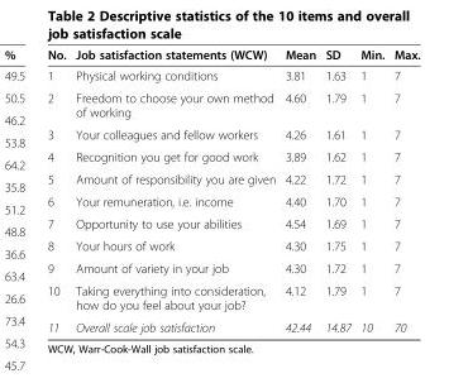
<table><thead><tr><td>No.</td><td>Job satisfaction statements (WCW)</td><td>Mean</td><td>SD</td><td>Min.</td><td>Max.</td></tr></thead><tbody><tr><td>1</td><td>Physical working conditions</td><td>3.81</td><td>1.63</td><td>1</td><td>7</td></tr><tr><td>2</td><td>Freedom to choose your own method of working</td><td>4.60</td><td>1.79</td><td>1</td><td>7</td></tr><tr><td>3</td><td>Your colleagues and fellow workers</td><td>4.26</td><td>1.61</td><td>1</td><td>7</td></tr><tr><td>4</td><td>Recognition you get for good work</td><td>3.89</td><td>1.62</td><td>1</td><td>7</td></tr><tr><td>5</td><td>Amount of responsibility you are given</td><td>4.22</td><td>1.72</td><td>1</td><td>7</td></tr><tr><td>6</td><td>Your remuneration, i.e. income</td><td>4.40</td><td>1.70</td><td>1</td><td>7</td></tr><tr><td>7</td><td>Opportunity to use your abilities</td><td>4.54</td><td>1.69</td><td>1</td><td>7</td></tr><tr><td>8</td><td>Your hours of work</td><td>4.30</td><td>1.75</td><td>1</td><td>7</td></tr><tr><td>9</td><td>Amount of variety in your job</td><td>4.30</td><td>1.72</td><td>1</td><td>7</td></tr><tr><td>10</td><td>Taking everything into consideration, how do you feel about your job?</td><td>4.12</td><td>1.79</td><td>1</td><td>7</td></tr><tr><td>11</td><td>Overall scale job satisfaction</td><td>42.44</td><td>14.87</td><td>10</td><td>70</td></tr></tbody></table>